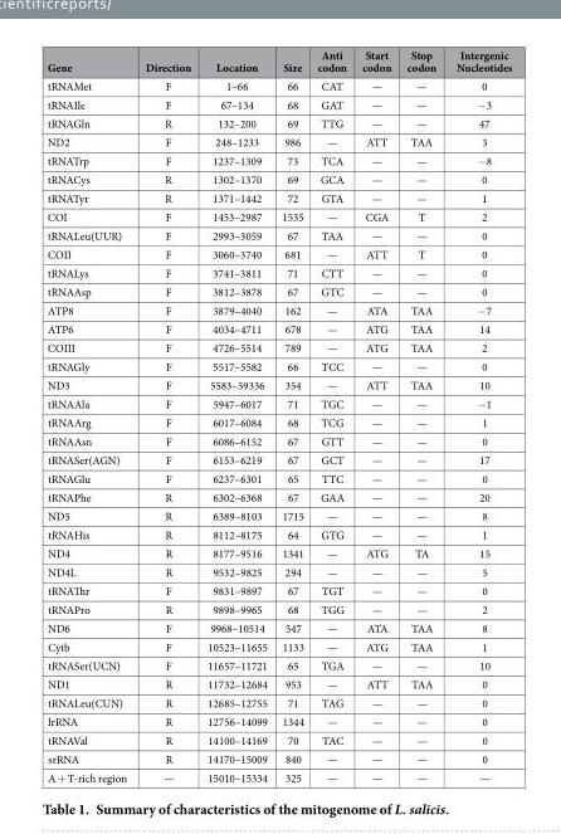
<table><thead><tr><td>Gene</td><td>Direction</td><td>Location</td><td>Size</td><td>Anti codon</td><td>Start codon</td><td>Stop codon</td><td>Intergenic Nucleotides</td></tr></thead><tbody><tr><td>tRNAMet</td><td>F</td><td>1–66</td><td>66</td><td>CAT</td><td>—</td><td>—</td><td>0</td></tr><tr><td>tRNAIle</td><td>F</td><td>67–134</td><td>68</td><td>GAT</td><td>—</td><td>—</td><td>− 3</td></tr><tr><td>tRNAGln</td><td>R</td><td>132–200</td><td>69</td><td>TTG</td><td>—</td><td>—</td><td>47</td></tr><tr><td>ND2</td><td>F</td><td>248–1233</td><td>986</td><td>—</td><td>ATT</td><td>TAA</td><td>3</td></tr><tr><td>tRNATrp</td><td>F</td><td>1237–1309</td><td>73</td><td>TCA</td><td>—</td><td>—</td><td>− 8</td></tr><tr><td>tRNACys</td><td>R</td><td>1302–1370</td><td>69</td><td>GCA</td><td>—</td><td>—</td><td>0</td></tr><tr><td>tRNATyr</td><td>R</td><td>1371–1442</td><td>72</td><td>GTA</td><td>—</td><td>—</td><td>1</td></tr><tr><td>COI</td><td>F</td><td>1453–2987</td><td>1535</td><td>—</td><td>CGA</td><td>T</td><td>2</td></tr><tr><td>tRNALeu(UUR)</td><td>F</td><td>2993–3059</td><td>67</td><td>TAA</td><td>—</td><td>—</td><td>0</td></tr><tr><td>COII</td><td>F</td><td>3060–3740</td><td>681</td><td>—</td><td>ATT</td><td>T</td><td>0</td></tr><tr><td>tRNALys</td><td>F</td><td>3741–3811</td><td>71</td><td>CTT</td><td>—</td><td>—</td><td>0</td></tr><tr><td>tRNAAsp</td><td>F</td><td>3812–3878</td><td>67</td><td>GTC</td><td>—</td><td>—</td><td>0</td></tr><tr><td>ATP8</td><td>F</td><td>3879–4040</td><td>162</td><td>—</td><td>ATA</td><td>TAA</td><td>− 7</td></tr><tr><td>ATP6</td><td>F</td><td>4034–4711</td><td>678</td><td>—</td><td>ATG</td><td>TAA</td><td>14</td></tr><tr><td>COIII</td><td>F</td><td>4726–5514</td><td>789</td><td>—</td><td>ATG</td><td>TAA</td><td>2</td></tr><tr><td>tRNAGly</td><td>F</td><td>5517–5582</td><td>66</td><td>TCC</td><td>—</td><td>—</td><td>0</td></tr><tr><td>ND3</td><td>F</td><td>5583–59336</td><td>354</td><td>—</td><td>ATT</td><td>TAA</td><td>10</td></tr><tr><td>tRNAAla</td><td>F</td><td>5947–6017</td><td>71</td><td>TGC</td><td>—</td><td>—</td><td>− 1</td></tr><tr><td>tRNAArg</td><td>F</td><td>6017–6084</td><td>68</td><td>TCG</td><td>—</td><td>—</td><td>1</td></tr><tr><td>tRNAAsn</td><td>F</td><td>6086–6152</td><td>67</td><td>GTT</td><td>—</td><td>—</td><td>0</td></tr><tr><td>tRNASer(AGN)</td><td>F</td><td>6153–6219</td><td>67</td><td>GCT</td><td>—</td><td>—</td><td>17</td></tr><tr><td>tRNAGlu</td><td>F</td><td>6237–6301</td><td>65</td><td>TTC</td><td>—</td><td>—</td><td>0</td></tr><tr><td>tRNAPhe</td><td>R</td><td>6302–6368</td><td>67</td><td>GAA</td><td>—</td><td>—</td><td>20</td></tr><tr><td>ND5</td><td>R</td><td>6389–8103</td><td>1715</td><td>—</td><td>—</td><td>—</td><td>8</td></tr><tr><td>tRNAHis</td><td>R</td><td>8112–8175</td><td>64</td><td>GTG</td><td>—</td><td>—</td><td>1</td></tr><tr><td>ND4</td><td>R</td><td>8177–9516</td><td>1341</td><td>—</td><td>ATG</td><td>TA</td><td>15</td></tr><tr><td>ND4L</td><td>R</td><td>9532–9825</td><td>294</td><td>—</td><td>—</td><td>—</td><td>5</td></tr><tr><td>tRNAThr</td><td>F</td><td>9831–9897</td><td>67</td><td>TGT</td><td>—</td><td>—</td><td>0</td></tr><tr><td>tRNAPro</td><td>R</td><td>9898–9965</td><td>68</td><td>TGG</td><td>—</td><td>—</td><td>2</td></tr><tr><td>ND6</td><td>F</td><td>9968–10514</td><td>547</td><td>—</td><td>ATA</td><td>TAA</td><td>8</td></tr><tr><td>Cytb</td><td>F</td><td>10523–11655</td><td>1133</td><td>—</td><td>ATG</td><td>TAA</td><td>1</td></tr><tr><td>tRNASer(UCN)</td><td>F</td><td>11657–11721</td><td>65</td><td>TGA</td><td>—</td><td>—</td><td>10</td></tr><tr><td>ND1</td><td>R</td><td>11732–12684</td><td>953</td><td>—</td><td>ATT</td><td>TAA</td><td>0</td></tr><tr><td>tRNALeu(CUN)</td><td>R</td><td>12685–12755</td><td>71</td><td>TAG</td><td>—</td><td>—</td><td>0</td></tr><tr><td>lrRNA</td><td>R</td><td>12756–14099</td><td>1344</td><td>—</td><td>—</td><td>—</td><td>0</td></tr><tr><td>tRNAVal</td><td>R</td><td>14100–14169</td><td>70</td><td>TAC</td><td>—</td><td>—</td><td>0</td></tr><tr><td>srRNA</td><td>R</td><td>14170–15009</td><td>840</td><td>—</td><td>—</td><td>—</td><td>0</td></tr><tr><td>A + T-rich region</td><td>—</td><td>15010–15334</td><td>325</td><td>—</td><td>—</td><td>—</td><td>—</td></tr></tbody></table>